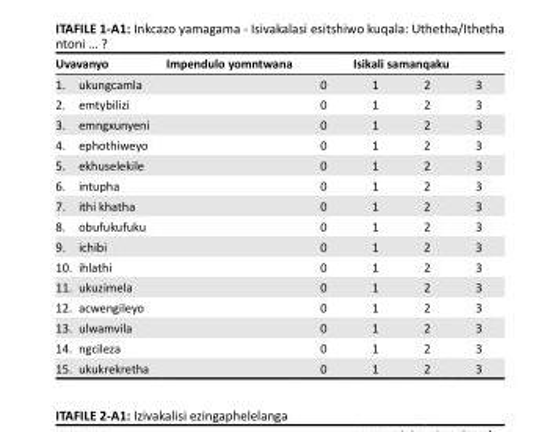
<table><thead><tr><td rowspan="2">Uvavanyo 1. ukungcamla</td><td rowspan="2">Impendulo yomntwana</td><td colspan="4">Isikali samanqaku</td></tr><tr><td>0</td><td>1</td><td>2</td><td>3</td></tr></thead><tbody><tr><td>2. emtybilizi</td><td></td><td>0</td><td>1</td><td>2</td><td>3</td></tr><tr><td>3. emngxunyeni</td><td></td><td>0</td><td>1</td><td>2</td><td>3</td></tr><tr><td>4. ephothiweyo</td><td></td><td>0</td><td>1</td><td>2</td><td>3</td></tr><tr><td>5. ekhuselekile</td><td></td><td>0</td><td>1</td><td>2</td><td>3</td></tr><tr><td>6. intupha</td><td></td><td>0</td><td>1</td><td>2</td><td>3</td></tr><tr><td>7. ithi khatha</td><td></td><td>0</td><td>1</td><td>2</td><td>3</td></tr><tr><td>8. obufukufuku</td><td></td><td>0</td><td>1</td><td>2</td><td>3</td></tr><tr><td>9. ichibi</td><td></td><td>0</td><td>1</td><td>2</td><td>3</td></tr><tr><td>10. ihlathi</td><td></td><td>0</td><td>1</td><td>2</td><td>3</td></tr><tr><td>11. ukuzimela</td><td></td><td>0</td><td>1</td><td>2</td><td>3</td></tr><tr><td>12. acwengileyo</td><td></td><td>0</td><td>1</td><td>2</td><td>3</td></tr><tr><td>13. ulwamvila</td><td></td><td>0</td><td>1</td><td>2</td><td>3</td></tr><tr><td>14. ngcileza</td><td></td><td>0</td><td>1</td><td>2</td><td>3</td></tr><tr><td>15. ukukrekretha</td><td></td><td>0</td><td>1</td><td>2</td><td>3</td></tr></tbody></table>